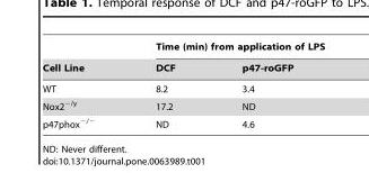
<table><thead><tr><td rowspan="2">Cell Line</td><td colspan="2">Time (min) from application of LPS</td></tr><tr><td>DCF</td><td>p47-roGFP</td></tr></thead><tbody><tr><td>WT</td><td>8.2</td><td>3.4</td></tr><tr><td>Nox2<sup>−/y</sup></td><td>17.2</td><td>ND</td></tr><tr><td>p47phox<sup>−/−</sup></td><td>ND</td><td>4.6</td></tr></tbody></table>